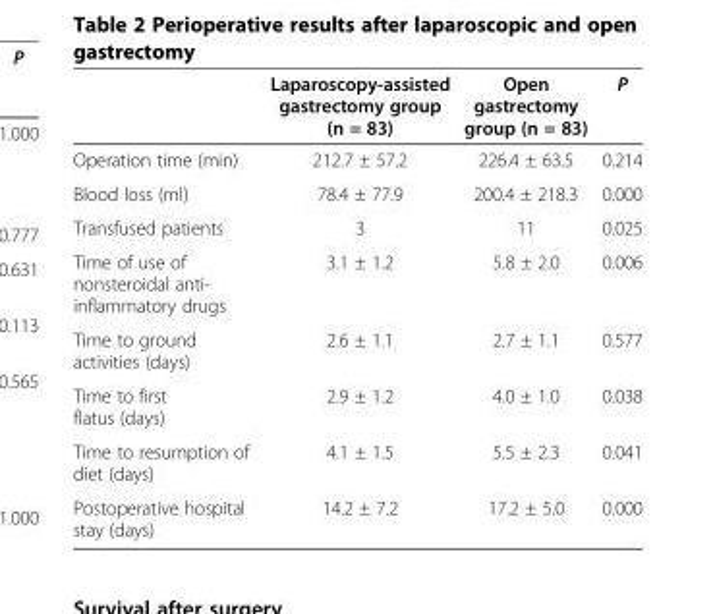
<table><thead><tr><td></td><td>Laparoscopy-assisted gastrectomy group (n = 83)</td><td>Open gastrectomy group (n = 83)</td><td>P</td></tr></thead><tbody><tr><td>Operation time (min)</td><td>212.7 ± 57.2</td><td>226.4 ± 63.5</td><td>0.214</td></tr><tr><td>Blood loss (ml)</td><td>78.4 ± 77.9</td><td>200.4 ± 218.3</td><td>0.000</td></tr><tr><td>Transfused patients</td><td>3</td><td>11</td><td>0.025</td></tr><tr><td>Time of use of nonsteroidal anti- inflammatory drugs</td><td>3.1 ± 1.2</td><td>5.8 ± 2.0</td><td>0.006</td></tr><tr><td>Time to ground activities (days)</td><td>2.6 ± 1.1</td><td>2.7 ± 1.1</td><td>0.577</td></tr><tr><td>Time to first flatus (days)</td><td>2.9 ± 1.2</td><td>4.0 ± 1.0</td><td>0.038</td></tr><tr><td>Time to resumption of diet (days)</td><td>4.1 ± 1.5</td><td>5.5 ± 2.3</td><td>0.041</td></tr><tr><td>Postoperative hospital stay (days)</td><td>14.2 ± 7.2</td><td>17.2 ± 5.0</td><td>0.000</td></tr></tbody></table>